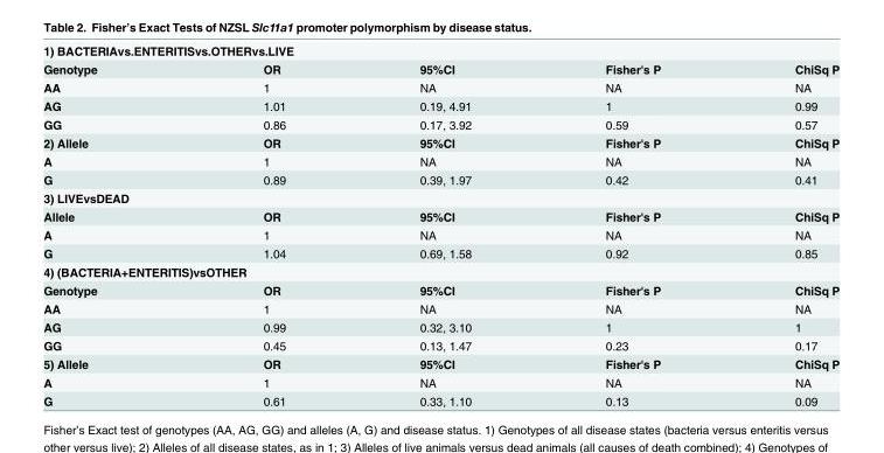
<table><tbody><tr><td colspan="5">1) BACTERIAvs.ENTERITISvs.OTHERvs.LIVE</td></tr><tr><td>Genotype</td><td>OR</td><td>95%CI</td><td>Fisher&#x27;s P</td><td>ChiSq P</td></tr><tr><td>AA</td><td>1</td><td>NA</td><td>NA</td><td>NA</td></tr><tr><td>AG</td><td>1.01</td><td>0.19, 4.91</td><td>1</td><td>0.99</td></tr><tr><td>GG</td><td>0.86</td><td>0.17, 3.92</td><td>0.59</td><td>0.57</td></tr><tr><td>2) Allele</td><td>OR</td><td>95%CI</td><td>Fisher&#x27;s P</td><td>ChiSq P</td></tr><tr><td>A</td><td>1</td><td>NA</td><td>NA</td><td>NA</td></tr><tr><td>G</td><td>0.89</td><td>0.39, 1.97</td><td>0.42</td><td>0.41</td></tr><tr><td colspan="5">3) LIVEvsDEAD</td></tr><tr><td>Allele</td><td>OR</td><td>95%CI</td><td>Fisher&#x27;s P</td><td>ChiSq P</td></tr><tr><td>A</td><td>1</td><td>NA</td><td>NA</td><td>NA</td></tr><tr><td>G</td><td>1.04</td><td>0.69, 1.58</td><td>0.92</td><td>0.85</td></tr><tr><td colspan="5">4) (BACTERIA+ENTERITIS)vsOTHER</td></tr><tr><td>Genotype</td><td>OR</td><td>95%CI</td><td>Fisher&#x27;s P</td><td>ChiSq P</td></tr><tr><td>AA</td><td>1</td><td>NA</td><td>NA</td><td>NA</td></tr><tr><td>AG</td><td>0.99</td><td>0.32, 3.10</td><td>1</td><td>1</td></tr><tr><td>GG</td><td>0.45</td><td>0.13, 1.47</td><td>0.23</td><td>0.17</td></tr><tr><td>5) Allele</td><td>OR</td><td>95%CI</td><td>Fisher&#x27;s P</td><td>ChiSq P</td></tr><tr><td>A</td><td>1</td><td>NA</td><td>NA</td><td>NA</td></tr><tr><td>G</td><td>0.61</td><td>0.33, 1.10</td><td>0.13</td><td>0.09</td></tr></tbody></table>